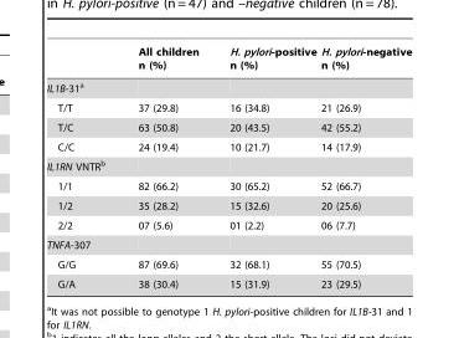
<table><thead><tr><td></td><td>All children n (%)</td><td>H. pylori-positive n (%)</td><td>H. pylori-negative n (%)</td></tr></thead><tbody><tr><td colspan="4">IL1B-31<sup>a</sup></td></tr><tr><td>T/T</td><td>37 (29.8)</td><td>16 (34.8)</td><td>21 (26.9)</td></tr><tr><td>T/C</td><td>63 (50.8)</td><td>20 (43.5)</td><td>42 (55.2)</td></tr><tr><td>C/C</td><td>24 (19.4)</td><td>10 (21.7)</td><td>14 (17.9)</td></tr><tr><td colspan="4">IL1RN VNTR<sup>b</sup></td></tr><tr><td>1/1</td><td>82 (66.2)</td><td>30 (65.2)</td><td>52 (66.7)</td></tr><tr><td>1/2</td><td>35 (28.2)</td><td>15 (32.6)</td><td>20 (25.6)</td></tr><tr><td>2/2</td><td>07 (5.6)</td><td>01 (2.2)</td><td>06 (7.7)</td></tr><tr><td colspan="4">TNFA-307</td></tr><tr><td>G/G</td><td>87 (69.6)</td><td>32 (68.1)</td><td>55 (70.5)</td></tr><tr><td>G/A</td><td>38 (30.4)</td><td>15 (31.9)</td><td>23 (29.5)</td></tr></tbody></table>